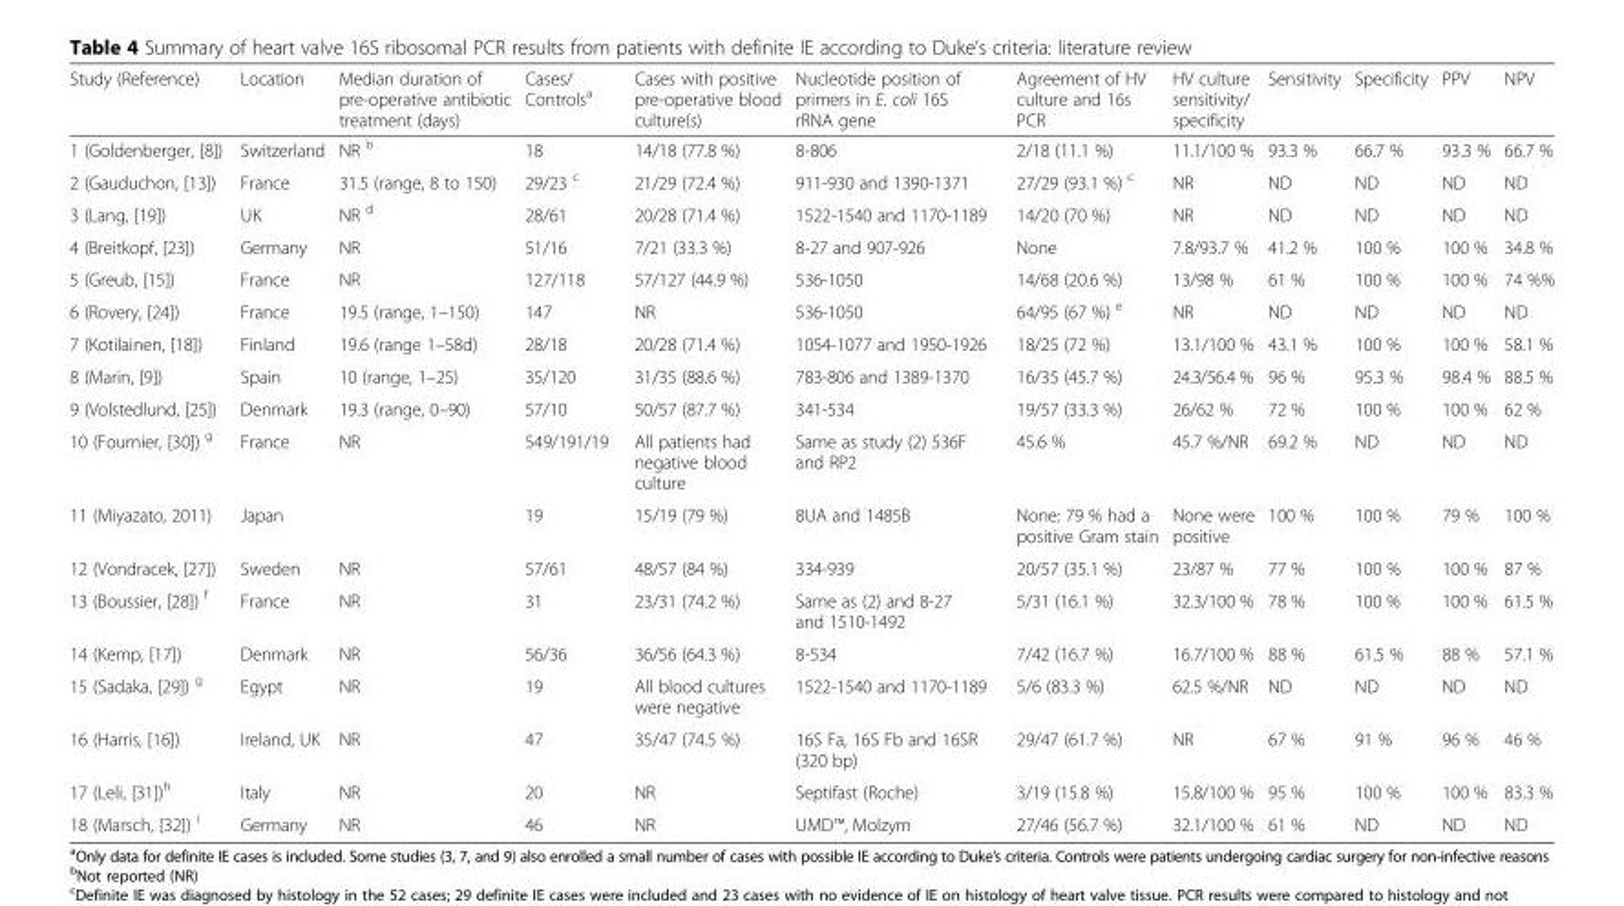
<table><thead><tr><td>Study (Reference)</td><td>Location</td><td>Median duration of pre-operative antibiotic treatment (days)</td><td>Cases/ Controls<sup>a</sup></td><td>Cases with positive pre-operative blood culture(s)</td><td>Nucleotide position of primers in E. coli 16S rRNA gene</td><td>Agreement of HV culture and 16s PCR</td><td>HV culture sensitivity/ specificity</td><td>Sensitivity</td><td>Specificity</td><td>PPV</td><td>NPV</td></tr></thead><tbody><tr><td>1 (Goldenberger, [8])</td><td>Switzerland</td><td>NR <sup>b</sup></td><td>18</td><td>14/18 (77.8 %)</td><td>8-806</td><td>2/18 (11.1 %)</td><td>11.1/100 %</td><td>93.3 %</td><td>66.7 %</td><td>93.3 %</td><td>66.7 %</td></tr><tr><td>2 (Gauduchon, [13])</td><td>France</td><td>31.5 (range, 8 to 150)</td><td>29/23 <sup>c</sup></td><td>21/29 (72.4 %)</td><td>911-930 and 1390-1371</td><td>27/29 (93.1 %) <sup>c</sup></td><td>NR</td><td>ND</td><td>ND</td><td>ND</td><td>ND</td></tr><tr><td>3 (Lang, [19])</td><td>UK</td><td>NR <sup>d</sup></td><td>28/61</td><td>20/28 (71.4 %)</td><td>1522-1540 and 1170-1189</td><td>14/20 (70 %)</td><td>NR</td><td>ND</td><td>ND</td><td>ND</td><td>ND</td></tr><tr><td>4 (Breitkopf, [23])</td><td>Germany</td><td>NR</td><td>51/16</td><td>7/21 (33.3 %)</td><td>8-27 and 907-926</td><td>None</td><td>7.8/93.7 %</td><td>41.2 %</td><td>100 %</td><td>100 %</td><td>34.8 %</td></tr><tr><td>5 (Greub, [15])</td><td>France</td><td>NR</td><td>127/118</td><td>57/127 (44.9 %)</td><td>536-1050</td><td>14/68 (20.6 %)</td><td>13/98 %</td><td>61 %</td><td>100 %</td><td>100 %</td><td>74 %%</td></tr><tr><td>6 (Rovery, [24])</td><td>France</td><td>19.5 (range, 1–150)</td><td>147</td><td>NR</td><td>536-1050</td><td>64/95 (67 %) <sup>e</sup></td><td>NR</td><td>ND</td><td>ND</td><td>ND</td><td>ND</td></tr><tr><td>7 (Kotilainen, [18])</td><td>Finland</td><td>19.6 (range 1–58d)</td><td>28/18</td><td>20/28 (71.4 %)</td><td>1054-1077 and 1950-1926</td><td>18/25 (72 %)</td><td>13.1/100 %</td><td>43.1 %</td><td>100 %</td><td>100 %</td><td>58.1 %</td></tr><tr><td>8 (Marin, [9])</td><td>Spain</td><td>10 (range, 1–25)</td><td>35/120</td><td>31/35 (88.6 %)</td><td>783-806 and 1389-1370</td><td>16/35 (45.7 %)</td><td>24.3/56.4 %</td><td>96 %</td><td>95.3 %</td><td>98.4 %</td><td>88.5 %</td></tr><tr><td>9 (Volstedlund, [25])</td><td>Denmark</td><td>19.3 (range, 0–90)</td><td>57/10</td><td>50/57 (87.7 %)</td><td>341-534</td><td>19/57 (33.3 %)</td><td>26/62 %</td><td>72 %</td><td>100 %</td><td>100 %</td><td>62 %</td></tr><tr><td>10 (Fournier, [30]) <sup>g</sup></td><td>France</td><td>NR</td><td>549/191/19</td><td>All patients had negative blood culture</td><td>Same as study (2) 536F and RP2</td><td>45.6 %</td><td>45.7 %/NR</td><td>69.2 %</td><td>ND</td><td>ND</td><td>ND</td></tr><tr><td>11 (Miyazato, 2011)</td><td>Japan</td><td></td><td>19</td><td>15/19 (79 %)</td><td>8UA and 1485B</td><td>None: 79 % had a positive Gram stain</td><td>None were positive</td><td>100 %</td><td>100 %</td><td>79 %</td><td>100 %</td></tr><tr><td>12 (Vondracek, [27])</td><td>Sweden</td><td>NR</td><td>57/61</td><td>48/57 (84 %)</td><td>334-939</td><td>20/57 (35.1 %)</td><td>23/87 %</td><td>77 %</td><td>100 %</td><td>100 %</td><td>87 %</td></tr><tr><td>13 (Boussier, [28]) <sup>f</sup></td><td>France</td><td>NR</td><td>31</td><td>23/31 (74.2 %)</td><td>Same as (2) and 8-27 and 1510-1492</td><td>5/31 (16.1 %)</td><td>32.3/100 %</td><td>78 %</td><td>100 %</td><td>100 %</td><td>61.5 %</td></tr><tr><td>14 (Kemp, [17])</td><td>Denmark</td><td>NR</td><td>56/36</td><td>36/56 (64.3 %)</td><td>8-534</td><td>7/42 (16.7 %)</td><td>16.7/100 %</td><td>88 %</td><td>61.5 %</td><td>88 %</td><td>57.1 %</td></tr><tr><td>15 (Sadaka, [29]) <sup>g</sup></td><td>Egypt</td><td>NR</td><td>19</td><td>All blood cultures were negative</td><td>1522-1540 and 1170-1189</td><td>5/6 (83.3 %)</td><td>62.5 %/NR</td><td>ND</td><td>ND</td><td>ND</td><td>ND</td></tr><tr><td>16 (Harris, [16])</td><td>Ireland, UK</td><td>NR</td><td>47</td><td>35/47 (74.5 %)</td><td>16S Fa, 16S Fb and 16SR (320 bp)</td><td>29/47 (61.7 %)</td><td>NR</td><td>67 %</td><td>91 %</td><td>96 %</td><td>46 %</td></tr><tr><td>17 (Leli, [31])<sup>h</sup></td><td>Italy</td><td>NR</td><td>20</td><td>NR</td><td>Septifast (Roche)</td><td>3/19 (15.8 %)</td><td>15.8/100 %</td><td>95 %</td><td>100 %</td><td>100 %</td><td>83.3 %</td></tr><tr><td>18 (Marsch, [32]) <sup>i</sup></td><td>Germany</td><td>NR</td><td>46</td><td>NR</td><td>UMD™, Molzym</td><td>27/46 (56.7 %)</td><td>32.1/100 %</td><td>61 %</td><td>ND</td><td>ND</td><td>ND</td></tr></tbody></table>